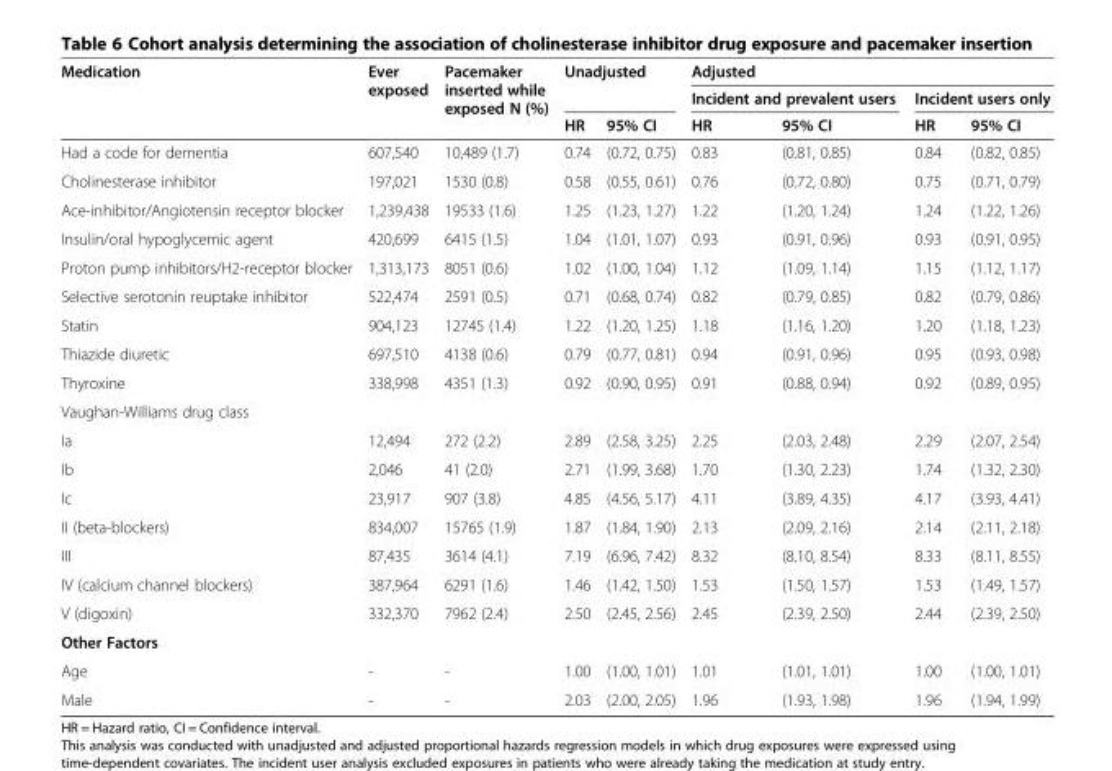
<table><thead><tr><td rowspan="3">Medication</td><td rowspan="3">Ever exposed</td><td rowspan="3">Pacemaker inserted while exposed N (%)</td><td rowspan="2" colspan="2">Unadjusted</td><td colspan="4">Adjusted</td></tr><tr><td colspan="2">Incident and prevalent users</td><td colspan="2">Incident users only</td></tr><tr><td>HR</td><td>95% CI</td><td>HR</td><td>95% CI</td><td>HR</td><td>95% CI</td></tr></thead><tbody><tr><td>Had a code for dementia</td><td>607,540</td><td>10,489 (1.7)</td><td>0.74</td><td>(0.72, 0.75)</td><td>0.83</td><td>(0.81, 0.85)</td><td>0.84</td><td>(0.82, 0.85)</td></tr><tr><td>Cholinesterase inhibitor</td><td>197,021</td><td>1530 (0.8)</td><td>0.58</td><td>(0.55, 0.61)</td><td>0.76</td><td>(0.72, 0.80)</td><td>0.75</td><td>(0.71, 0.79)</td></tr><tr><td>Ace-inhibitor/Angiotensin receptor blocker</td><td>1,239,438</td><td>19533 (1.6)</td><td>1.25</td><td>(1.23, 1.27)</td><td>1.22</td><td>(1.20, 1.24)</td><td>1.24</td><td>(1.22, 1.26)</td></tr><tr><td>Insulin/oral hypoglycemic agent</td><td>420,699</td><td>6415 (1.5)</td><td>1.04</td><td>(1.01, 1.07)</td><td>0.93</td><td>(0.91, 0.96)</td><td>0.93</td><td>(0.91, 0.95)</td></tr><tr><td>Proton pump inhibitors/H2-receptor blocker</td><td>1,313,173</td><td>8051 (0.6)</td><td>1.02</td><td>(1.00, 1.04)</td><td>1.12</td><td>(1.09, 1.14)</td><td>1.15</td><td>(1.12, 1.17)</td></tr><tr><td>Selective serotonin reuptake inhibitor</td><td>522,474</td><td>2591 (0.5)</td><td>0.71</td><td>(0.68, 0.74)</td><td>0.82</td><td>(0.79, 0.85)</td><td>0.82</td><td>(0.79, 0.86)</td></tr><tr><td>Statin</td><td>904,123</td><td>12745 (1.4)</td><td>1.22</td><td>(1.20, 1.25)</td><td>1.18</td><td>(1.16, 1.20)</td><td>1.20</td><td>(1.18, 1.23)</td></tr><tr><td>Thiazide diuretic</td><td>697,510</td><td>4138 (0.6)</td><td>0.79</td><td>(0.77, 0.81)</td><td>0.94</td><td>(0.91, 0.96)</td><td>0.95</td><td>(0.93, 0.98)</td></tr><tr><td>Thyroxine</td><td>338,998</td><td>4351 (1.3)</td><td>0.92</td><td>(0.90, 0.95)</td><td>0.91</td><td>(0.88, 0.94)</td><td>0.92</td><td>(0.89, 0.95)</td></tr><tr><td colspan="9">Vaughan-Williams drug class</td></tr><tr><td>Ia</td><td>12,494</td><td>272 (2.2)</td><td>2.89</td><td>(2.58, 3.25)</td><td>2.25</td><td>(2.03, 2.48)</td><td>2.29</td><td>(2.07, 2.54)</td></tr><tr><td>Ib</td><td>2,046</td><td>41 (2.0)</td><td>2.71</td><td>(1.99, 3.68)</td><td>1.70</td><td>(1.30, 2.23)</td><td>1.74</td><td>(1.32, 2.30)</td></tr><tr><td>Ic</td><td>23,917</td><td>907 (3.8)</td><td>4.85</td><td>(4.56, 5.17)</td><td>4.11</td><td>(3.89, 4.35)</td><td>4.17</td><td>(3.93, 4.41)</td></tr><tr><td>II (beta-blockers)</td><td>834,007</td><td>15765 (1.9)</td><td>1.87</td><td>(1.84, 1.90)</td><td>2.13</td><td>(2.09, 2.16)</td><td>2.14</td><td>(2.11, 2.18)</td></tr><tr><td>III</td><td>87,435</td><td>3614 (4.1)</td><td>7.19</td><td>(6.96, 7.42)</td><td>8.32</td><td>(8.10, 8.54)</td><td>8.33</td><td>(8.11, 8.55)</td></tr><tr><td>IV (calcium channel blockers)</td><td>387,964</td><td>6291 (1.6)</td><td>1.46</td><td>(1.42, 1.50)</td><td>1.53</td><td>(1.50, 1.57)</td><td>1.53</td><td>(1.49, 1.57)</td></tr><tr><td>V (digoxin)</td><td>332,370</td><td>7962 (2.4)</td><td>2.50</td><td>(2.45, 2.56)</td><td>2.45</td><td>(2.39, 2.50)</td><td>2.44</td><td>(2.39, 2.50)</td></tr><tr><td colspan="9">Other Factors</td></tr><tr><td>Age</td><td>-</td><td>-</td><td>1.00</td><td>(1.00, 1.01)</td><td>1.01</td><td>(1.01, 1.01)</td><td>1.00</td><td>(1.00, 1.01)</td></tr><tr><td>Male</td><td>-</td><td>-</td><td>2.03</td><td>(2.00, 2.05)</td><td>1.96</td><td>(1.93, 1.98)</td><td>1.96</td><td>(1.94, 1.99)</td></tr></tbody></table>